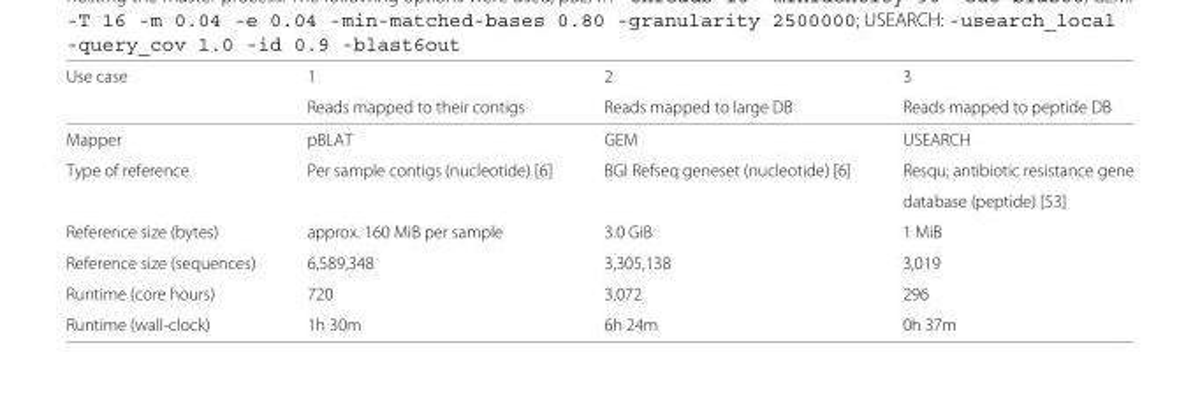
<table><thead><tr><td rowspan="2">Use case</td><td rowspan="2">1 Reads mapped to their contigs</td><td rowspan="2">2 Reads mapped to large DB</td><td rowspan="2">3 Reads mapped to peptide DB</td></tr><tr></tr></thead><tbody><tr><td>Mapper</td><td>pBLAT</td><td>GEM</td><td>USEARCH</td></tr><tr><td rowspan="2">Type of reference</td><td>Per sample contigs (nucleotide) [6]</td><td>BGI Refseq geneset (nucleotide) [6]</td><td>Resqu; antibiotic resistance gene</td></tr><tr><td></td><td></td><td>database (peptide) [53]</td></tr><tr><td>Reference size (bytes)</td><td>approx. 160 MiB per sample</td><td>3.0 GiB</td><td>1 MiB</td></tr><tr><td>Reference size (sequences)</td><td>6,589,348</td><td>3,305,138</td><td>3,019</td></tr><tr><td>Runtime (core hours)</td><td>720</td><td>3,072</td><td>296</td></tr><tr><td>Runtime (wall-clock)</td><td>1h 30m</td><td>6h 24m</td><td>0h 37m</td></tr></tbody></table>